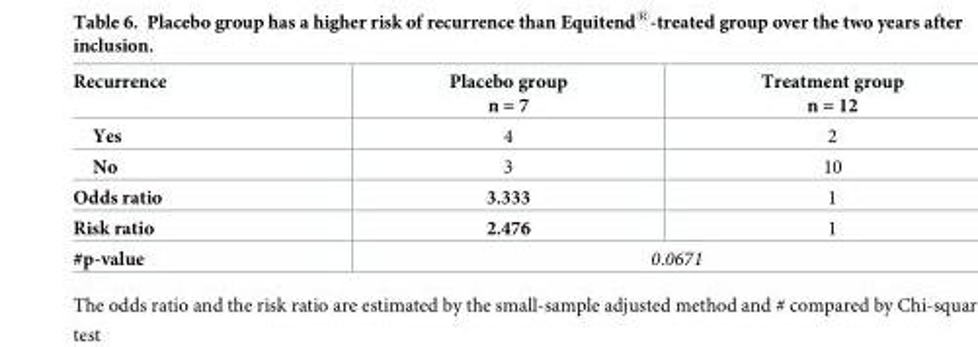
<table><thead><tr><td>Recurrence</td><td>Placebo group n = 7</td><td>Treatment group n = 12</td></tr></thead><tbody><tr><td>Yes</td><td>4</td><td>2</td></tr><tr><td>No</td><td>3</td><td>10</td></tr><tr><td>Odds ratio</td><td>3.333</td><td>1</td></tr><tr><td>Risk ratio</td><td>2.476</td><td>1</td></tr><tr><td>#p-value</td><td colspan="2">0.0671</td></tr></tbody></table>